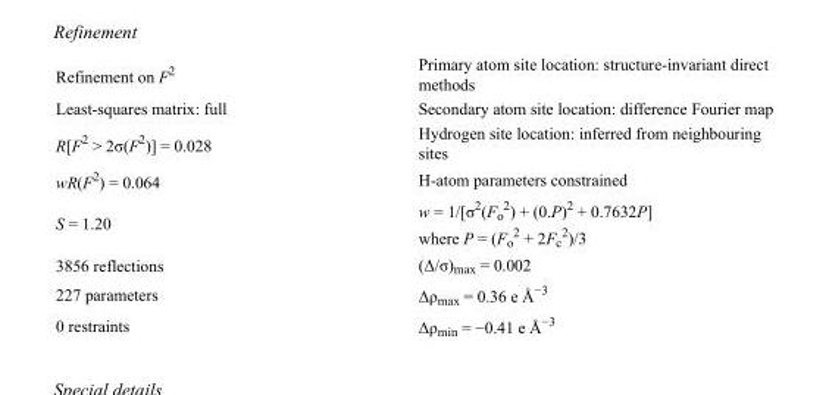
<table><tbody><tr><td>Refinement on F<sup>2</sup></td><td>Primary atom site location: structure-invariant direct methods</td></tr><tr><td>Least-squares matrix: full</td><td>Secondary atom site location: difference Fourier map</td></tr><tr><td>R[F<sup>2</sup> &gt; 2σ(F<sup>2</sup>)] = 0.028</td><td>Hydrogen site location: inferred from neighbouring sites</td></tr><tr><td>wR(F<sup>2</sup>) = 0.064</td><td>H-atom parameters constrained</td></tr><tr><td>S = 1.20</td><td>w = 1/[σ<sup>2</sup>(F<sub>o</sub> <sup>2</sup>) + (0.P)<sup>2</sup> + 0.7632P] where P = (F<sub>o</sub> <sup>2</sup> + 2F<sub>c</sub> <sup>2</sup>)/3</td></tr><tr><td>3856 reflections</td><td>(Δ/σ)<sub>max</sub> = 0.002</td></tr><tr><td>227 parameters</td><td>Δρ<sub>max</sub> = 0.36 e Å<sup>−3</sup></td></tr><tr><td>0 restraints</td><td>Δρ<sub>min</sub> = −0.41 e Å<sup>−3</sup></td></tr></tbody></table>